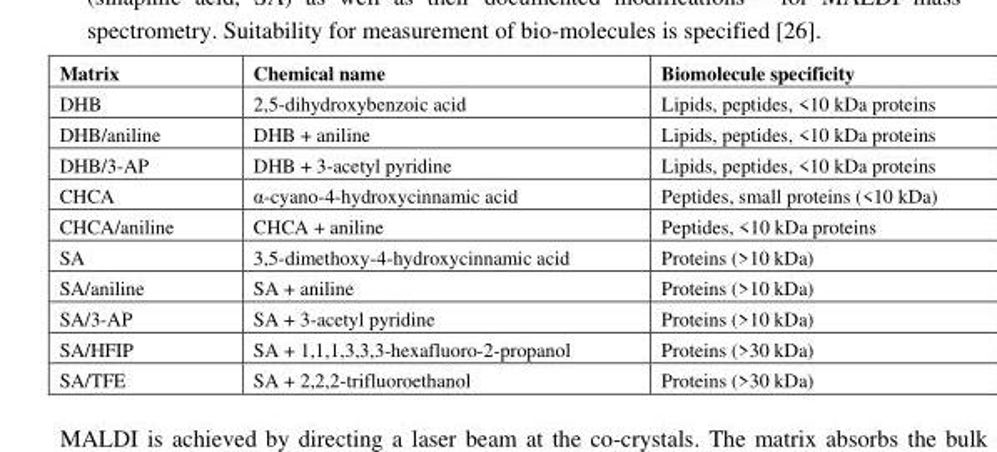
<table><thead><tr><td>Matrix</td><td>Chemical name</td><td>Biomolecule specificity</td></tr></thead><tbody><tr><td>DHB</td><td>2,5-dihydroxybenzoic acid</td><td>Lipids, peptides, &lt;10 kDa proteins</td></tr><tr><td>DHB/aniline</td><td>DHB + aniline</td><td>Lipids, peptides, &lt;10 kDa proteins</td></tr><tr><td>DHB/3-AP</td><td>DHB + 3-acetyl pyridine</td><td>Lipids, peptides, &lt;10 kDa proteins</td></tr><tr><td>CHCA</td><td>α-cyano-4-hydroxycinnamic acid</td><td>Peptides, small proteins (&lt;10 kDa)</td></tr><tr><td>CHCA/aniline</td><td>CHCA + aniline</td><td>Peptides, &lt;10 kDa proteins</td></tr><tr><td>SA</td><td>3,5-dimethoxy-4-hydroxycinnamic acid</td><td>Proteins (&gt;10 kDa)</td></tr><tr><td>SA/aniline</td><td>SA + aniline</td><td>Proteins (&gt;10 kDa)</td></tr><tr><td>SA/3-AP</td><td>SA + 3-acetyl pyridine</td><td>Proteins (&gt;10 kDa)</td></tr><tr><td>SA/HFIP</td><td>SA + 1,1,1,3,3,3-hexafluoro-2-propanol</td><td>Proteins (&gt;30 kDa)</td></tr><tr><td>SA/TFE</td><td>SA + 2,2,2-trifluoroethanol</td><td>Proteins (&gt;30 kDa)</td></tr></tbody></table>